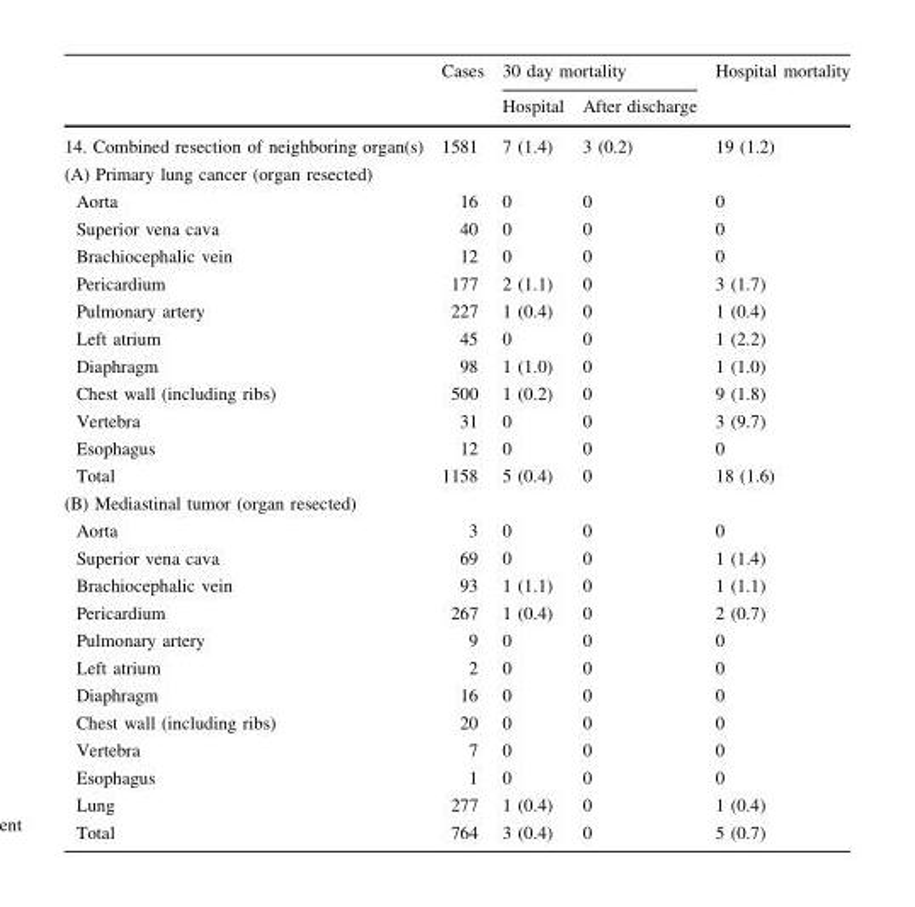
<table><thead><tr><td rowspan="2"></td><td rowspan="2">Cases</td><td colspan="2">30 day mortality</td><td rowspan="2">Hospital mortality</td></tr><tr><td>Hospital</td><td>After discharge</td></tr></thead><tbody><tr><td>14. Combined resection of neighboring organ(s)</td><td>1581</td><td>7 (1.4)</td><td>3 (0.2)</td><td>19 (1.2)</td></tr><tr><td colspan="5">(A) Primary lung cancer (organ resected)</td></tr><tr><td>Aorta</td><td>16</td><td>0</td><td>0</td><td>0</td></tr><tr><td>Superior vena cava</td><td>40</td><td>0</td><td>0</td><td>0</td></tr><tr><td>Brachiocephalic vein</td><td>12</td><td>0</td><td>0</td><td>0</td></tr><tr><td>Pericardium</td><td>177</td><td>2 (1.1)</td><td>0</td><td>3 (1.7)</td></tr><tr><td>Pulmonary artery</td><td>227</td><td>1 (0.4)</td><td>0</td><td>1 (0.4)</td></tr><tr><td>Left atrium</td><td>45</td><td>0</td><td>0</td><td>1 (2.2)</td></tr><tr><td>Diaphragm</td><td>98</td><td>1 (1.0)</td><td>0</td><td>1 (1.0)</td></tr><tr><td>Chest wall (including ribs)</td><td>500</td><td>1 (0.2)</td><td>0</td><td>9 (1.8)</td></tr><tr><td>Vertebra</td><td>31</td><td>0</td><td>0</td><td>3 (9.7)</td></tr><tr><td>Esophagus</td><td>12</td><td>0</td><td>0</td><td>0</td></tr><tr><td>Total</td><td>1158</td><td>5 (0.4)</td><td>0</td><td>18 (1.6)</td></tr><tr><td colspan="5">(B) Mediastinal tumor (organ resected)</td></tr><tr><td>Aorta</td><td>3</td><td>0</td><td>0</td><td>0</td></tr><tr><td>Superior vena cava</td><td>69</td><td>0</td><td>0</td><td>1 (1.4)</td></tr><tr><td>Brachiocephalic vein</td><td>93</td><td>1 (1.1)</td><td>0</td><td>1 (1.1)</td></tr><tr><td>Pericardium</td><td>267</td><td>1 (0.4)</td><td>0</td><td>2 (0.7)</td></tr><tr><td>Pulmonary artery</td><td>9</td><td>0</td><td>0</td><td>0</td></tr><tr><td>Left atrium</td><td>2</td><td>0</td><td>0</td><td>0</td></tr><tr><td>Diaphragm</td><td>16</td><td>0</td><td>0</td><td>0</td></tr><tr><td>Chest wall (including ribs)</td><td>20</td><td>0</td><td>0</td><td>0</td></tr><tr><td>Vertebra</td><td>7</td><td>0</td><td>0</td><td>0</td></tr><tr><td>Esophagus</td><td>1</td><td>0</td><td>0</td><td>0</td></tr><tr><td>Lung</td><td>277</td><td>1 (0.4)</td><td>0</td><td>1 (0.4)</td></tr><tr><td>Total</td><td>764</td><td>3 (0.4)</td><td>0</td><td>5 (0.7)</td></tr></tbody></table>